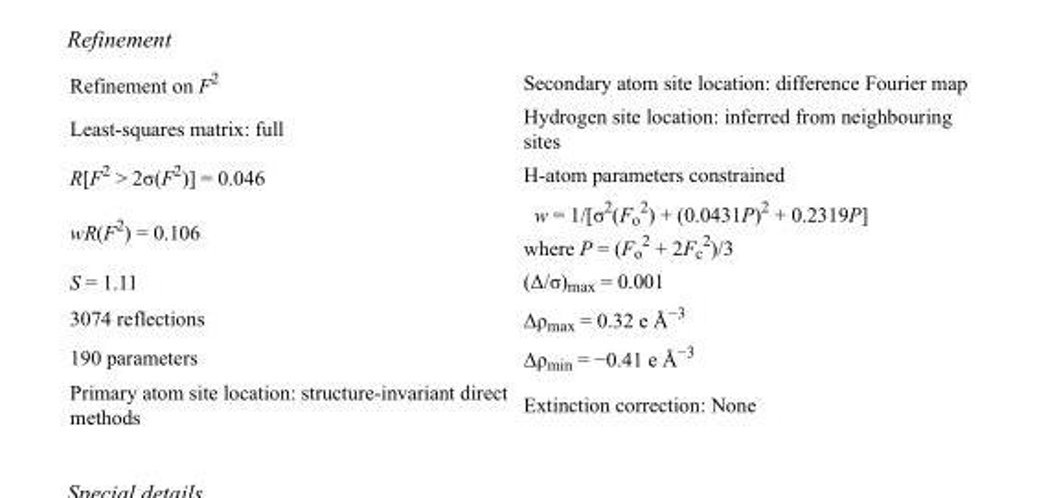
<table><tbody><tr><td>Refinement on F<sup>2</sup></td><td>Secondary atom site location: difference Fourier map</td></tr><tr><td>Least-squares matrix: full</td><td>Hydrogen site location: inferred from neighbouring sites</td></tr><tr><td>R[F<sup>2</sup> &gt; 2σ(F<sup>2</sup>)] = 0.046</td><td>H-atom parameters constrained</td></tr><tr><td>wR(F<sup>2</sup>) = 0.106</td><td>w = 1/[σ<sup>2</sup>(F<sub>o</sub> <sup>2</sup>) + (0.0431P)<sup>2</sup> + 0.2319P] where P = (F<sub>o</sub> <sup>2</sup> + 2F<sub>c</sub> <sup>2</sup>)/3</td></tr><tr><td>S = 1.11</td><td>(Δ/σ)<sub>max</sub> = 0.001</td></tr><tr><td>3074 reflections</td><td>Δρ<sub>max</sub> = 0.32 e Å<sup>−3</sup></td></tr><tr><td>190 parameters</td><td>Δρ<sub>min</sub> = −0.41 e Å<sup>−3</sup></td></tr><tr><td>Primary atom site location: structure-invariant direct methods</td><td>Extinction correction: None</td></tr></tbody></table>